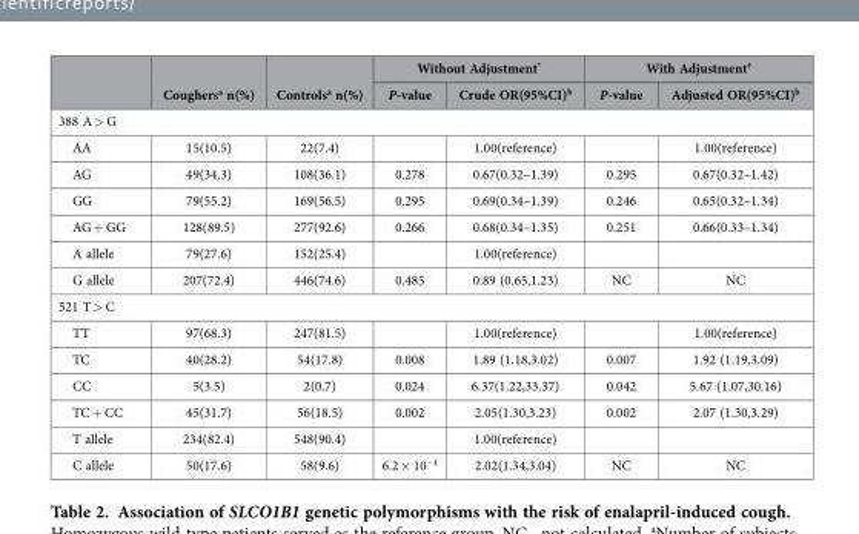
<table><thead><tr><td rowspan="2"></td><td rowspan="2">Coughers<sup>a</sup> n(%)</td><td rowspan="2">Controls<sup>a</sup> n(%)</td><td colspan="2">Without Adjustment*</td><td colspan="2">With Adjustment†</td></tr><tr><td>P-value</td><td>Crude OR(95%CI)<sup>b</sup></td><td>P-value</td><td>Adjusted OR(95%CI)<sup>b</sup></td></tr></thead><tbody><tr><td colspan="7">388 A &gt; G</td></tr><tr><td>AA</td><td>15(10.5)</td><td>22(7.4)</td><td></td><td>1.00(reference)</td><td></td><td>1.00(reference)</td></tr><tr><td>AG</td><td>49(34.3)</td><td>108(36.1)</td><td>0.278</td><td>0.67(0.32–1.39)</td><td>0.295</td><td>0.67(0.32–1.42)</td></tr><tr><td>GG</td><td>79(55.2)</td><td>169(56.5)</td><td>0.295</td><td>0.69(0.34–1.39)</td><td>0.246</td><td>0.65(0.32–1.34)</td></tr><tr><td>AG + GG</td><td>128(89.5)</td><td>277(92.6)</td><td>0.266</td><td>0.68(0.34–1.35)</td><td>0.251</td><td>0.66(0.33–1.34)</td></tr><tr><td>A allele</td><td>79(27.6)</td><td>152(25.4)</td><td></td><td>1.00(reference)</td><td></td><td></td></tr><tr><td>G allele</td><td>207(72.4)</td><td>446(74.6)</td><td>0.485</td><td>0.89 (0.65,1.23)</td><td>NC</td><td>NC</td></tr><tr><td colspan="7">521 T &gt; C</td></tr><tr><td>TT</td><td>97(68.3)</td><td>247(81.5)</td><td></td><td>1.00(reference)</td><td></td><td>1.00(reference)</td></tr><tr><td>TC</td><td>40(28.2)</td><td>54(17.8)</td><td>0.008</td><td>1.89 (1.18,3.02)</td><td>0.007</td><td>1.92 (1.19,3.09)</td></tr><tr><td>CC</td><td>5(3.5)</td><td>2(0.7)</td><td>0.024</td><td>6.37(1.22,33.37)</td><td>0.042</td><td>5.67 (1.07,30.16)</td></tr><tr><td>TC + CC</td><td>45(31.7)</td><td>56(18.5)</td><td>0.002</td><td>2.05(1.30,3.23)</td><td>0.002</td><td>2.07 (1.30,3.29)</td></tr><tr><td>T allele</td><td>234(82.4)</td><td>548(90.4)</td><td></td><td>1.00(reference)</td><td></td><td></td></tr><tr><td>C allele</td><td>50(17.6)</td><td>58(9.6)</td><td>6.2 × 10<sup>−4</sup></td><td>2.02(1.34,3.04)</td><td>NC</td><td>NC</td></tr></tbody></table>